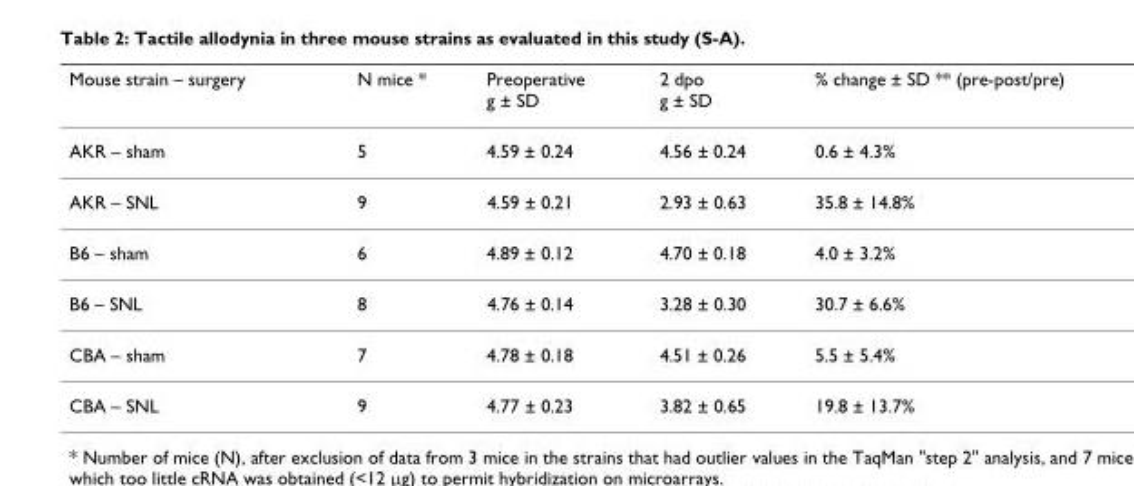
<table><thead><tr><td>Mouse strain – surgery</td><td>N mice *</td><td>Preoperative g ± SD</td><td>2 dpo g ± SD</td><td>% change ± SD ** (pre-post/pre)</td></tr></thead><tbody><tr><td>AKR – sham</td><td>5</td><td>4.59 ± 0.24</td><td>4.56 ± 0.24</td><td>0.6 ± 4.3%</td></tr><tr><td>AKR – SNL</td><td>9</td><td>4.59 ± 0.21</td><td>2.93 ± 0.63</td><td>35.8 ± 14.8%</td></tr><tr><td>B6 – sham</td><td>6</td><td>4.89 ± 0.12</td><td>4.70 ± 0.18</td><td>4.0 ± 3.2%</td></tr><tr><td>B6 – SNL</td><td>8</td><td>4.76 ± 0.14</td><td>3.28 ± 0.30</td><td>30.7 ± 6.6%</td></tr><tr><td>CBA – sham</td><td>7</td><td>4.78 ± 0.18</td><td>4.51 ± 0.26</td><td>5.5 ± 5.4%</td></tr><tr><td>CBA – SNL</td><td>9</td><td>4.77 ± 0.23</td><td>3.82 ± 0.65</td><td>19.8 ± 13.7%</td></tr></tbody></table>